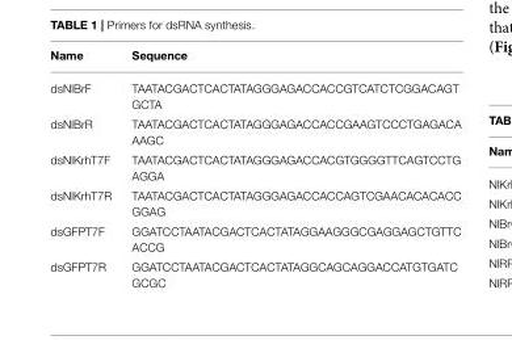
<table><thead><tr><td>Name</td><td>Sequence</td></tr></thead><tbody><tr><td>dsNlBrF</td><td>TAATACGACTCACTATAGGGAGACCACCGTCATCTCGGACAGT GCTA</td></tr><tr><td>dsNlBrR</td><td>TAATACGACTCACTATAGGGAGACCACCGAAGTCCCTGAGACA AAGC</td></tr><tr><td>dsNlKrhT7F</td><td>TAATACGACTCACTATAGGGAGACCACGTGGGGTTCAGTCCTG AGGA</td></tr><tr><td>dsNlKrhT7R</td><td>TAATACGACTCACTATAGGGAGACCACCAGTCGAACACACACC GGAG</td></tr><tr><td>dsGFPT7F</td><td>GGATCCTAATACGACTCACTATAGGAAGGGCGAGGAGCTGTTC ACCG</td></tr><tr><td>dsGFPT7R</td><td>GGATCCTAATACGACTCACTATAGGCAGCAGGACCATGTGATC GCGC</td></tr></tbody></table>